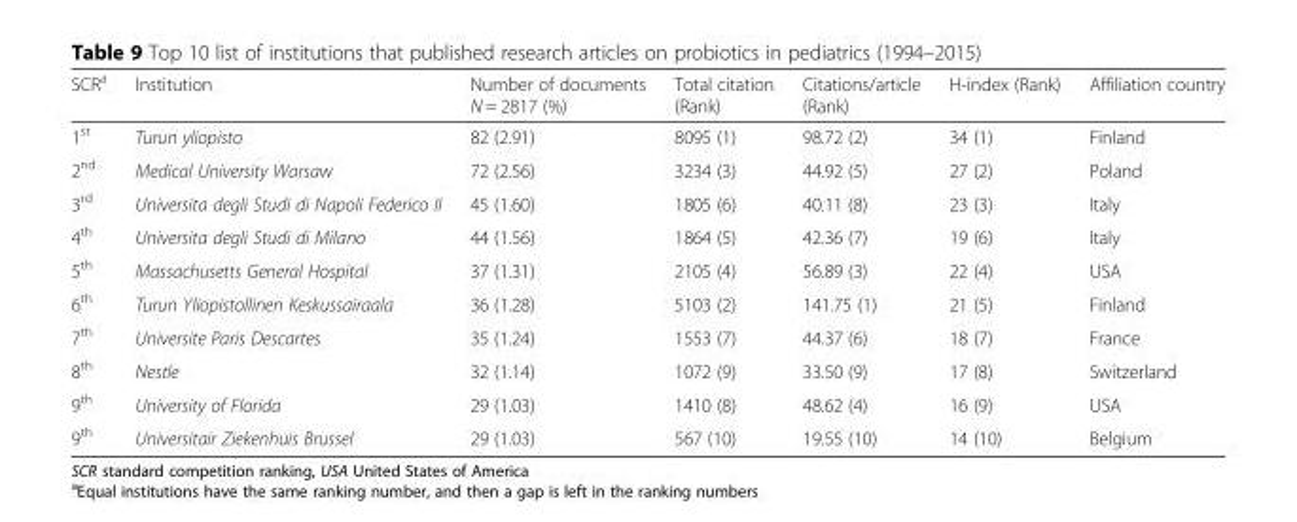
<table><thead><tr><td>SCR<sup>a</sup></td><td>Institution</td><td>Number of documents N = 2817 (%)</td><td>Total citation (Rank)</td><td>Citations/article (Rank)</td><td>H-index (Rank)</td><td>Affiliation country</td></tr></thead><tbody><tr><td>1<sup>st</sup></td><td>Turun yliopisto</td><td>82 (2.91)</td><td>8095 (1)</td><td>98.72 (2)</td><td>34 (1)</td><td>Finland</td></tr><tr><td>2<sup>nd</sup></td><td>Medical University Warsaw</td><td>72 (2.56)</td><td>3234 (3)</td><td>44.92 (5)</td><td>27 (2)</td><td>Poland</td></tr><tr><td>3<sup>rd</sup></td><td>Universita degli Studi di Napoli Federico II</td><td>45 (1.60)</td><td>1805 (6)</td><td>40.11 (8)</td><td>23 (3)</td><td>Italy</td></tr><tr><td>4<sup>th</sup></td><td>Universita degli Studi di Milano</td><td>44 (1.56)</td><td>1864 (5)</td><td>42.36 (7)</td><td>19 (6)</td><td>Italy</td></tr><tr><td>5<sup>th</sup></td><td>Massachusetts General Hospital</td><td>37 (1.31)</td><td>2105 (4)</td><td>56.89 (3)</td><td>22 (4)</td><td>USA</td></tr><tr><td>6<sup>th</sup></td><td>Turun Yliopistollinen Keskussairaala</td><td>36 (1.28)</td><td>5103 (2)</td><td>141.75 (1)</td><td>21 (5)</td><td>Finland</td></tr><tr><td>7<sup>th</sup></td><td>Universite Paris Descartes</td><td>35 (1.24)</td><td>1553 (7)</td><td>44.37 (6)</td><td>18 (7)</td><td>France</td></tr><tr><td>8<sup>th</sup></td><td>Nestle</td><td>32 (1.14)</td><td>1072 (9)</td><td>33.50 (9)</td><td>17 (8)</td><td>Switzerland</td></tr><tr><td>9<sup>th</sup></td><td>University of Florida</td><td>29 (1.03)</td><td>1410 (8)</td><td>48.62 (4)</td><td>16 (9)</td><td>USA</td></tr><tr><td>9<sup>th</sup></td><td>Universitair Ziekenhuis Brussel</td><td>29 (1.03)</td><td>567 (10)</td><td>19.55 (10)</td><td>14 (10)</td><td>Belgium</td></tr></tbody></table>